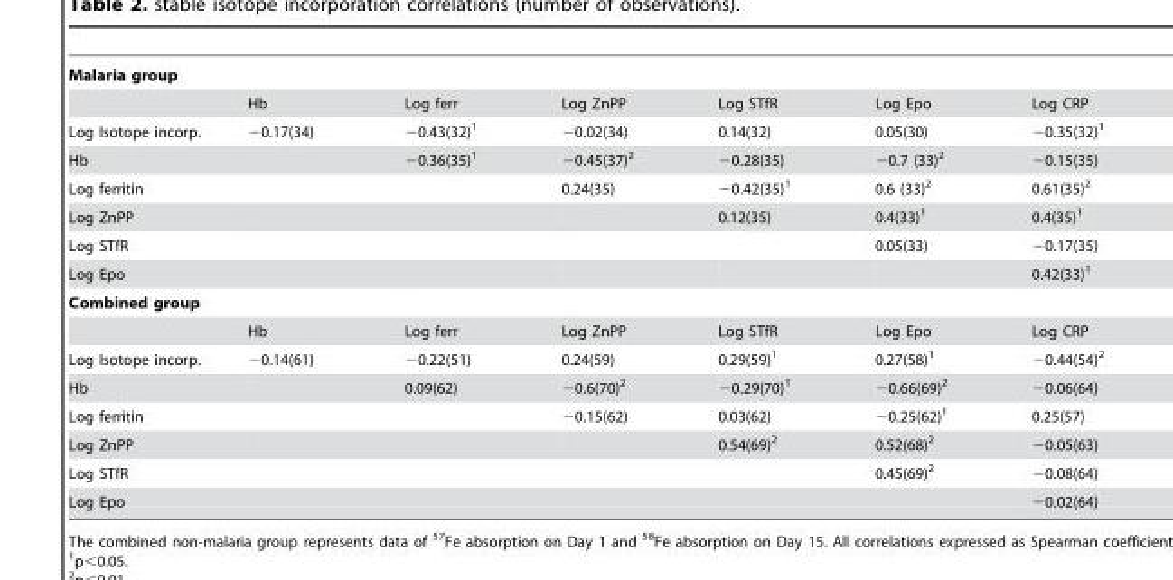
<table><tbody><tr><td colspan="7">Malaria group</td></tr><tr><td></td><td>Hb</td><td>Log ferr</td><td>Log ZnPP</td><td>Log STfR</td><td>Log Epo</td><td>Log CRP</td></tr><tr><td>Log Isotope incorp.</td><td>−0.17(34)</td><td>−0.43(32)<sup>1</sup></td><td>−0.02(34)</td><td>0.14(32)</td><td>0.05(30)</td><td>−0.35(32)<sup>1</sup></td></tr><tr><td>Hb</td><td></td><td>−0.36(35)<sup>1</sup></td><td>−0.45(37)<sup>2</sup></td><td>−0.28(35)</td><td>−0.7 (33)<sup>2</sup></td><td>−0.15(35)</td></tr><tr><td>Log ferritin</td><td></td><td></td><td>0.24(35)</td><td>−0.42(35)<sup>1</sup></td><td>0.6 (33)<sup>2</sup></td><td>0.61(35)<sup>2</sup></td></tr><tr><td>Log ZnPP</td><td></td><td></td><td></td><td>0.12(35)</td><td>0.4(33)<sup>1</sup></td><td>0.4(35)<sup>1</sup></td></tr><tr><td>Log STfR</td><td></td><td></td><td></td><td></td><td>0.05(33)</td><td>−0.17(35)</td></tr><tr><td>Log Epo</td><td></td><td></td><td></td><td></td><td></td><td>0.42(33)<sup>1</sup></td></tr><tr><td colspan="7">Combined group</td></tr><tr><td></td><td>Hb</td><td>Log ferr</td><td>Log ZnPP</td><td>Log STfR</td><td>Log Epo</td><td>Log CRP</td></tr><tr><td>Log Isotope incorp.</td><td>−0.14(61)</td><td>−0.22(51)</td><td>0.24(59)</td><td>0.29(59)<sup>1</sup></td><td>0.27(58)<sup>1</sup></td><td>−0.44(54)<sup>2</sup></td></tr><tr><td>Hb</td><td></td><td>0.09(62)</td><td>−0.6(70)<sup>2</sup></td><td>−0.29(70)<sup>1</sup></td><td>−0.66(69)<sup>2</sup></td><td>−0.06(64)</td></tr><tr><td>Log ferritin</td><td></td><td></td><td>−0.15(62)</td><td>0.03(62)</td><td>−0.25(62)<sup>1</sup></td><td>0.25(57)</td></tr><tr><td>Log ZnPP</td><td></td><td></td><td></td><td>0.54(69)<sup>2</sup></td><td>0.52(68)<sup>2</sup></td><td>−0.05(63)</td></tr><tr><td>Log STfR</td><td></td><td></td><td></td><td></td><td>0.45(69)<sup>2</sup></td><td>−0.08(64)</td></tr><tr><td>Log Epo</td><td></td><td></td><td></td><td></td><td></td><td>−0.02(64)</td></tr></tbody></table>